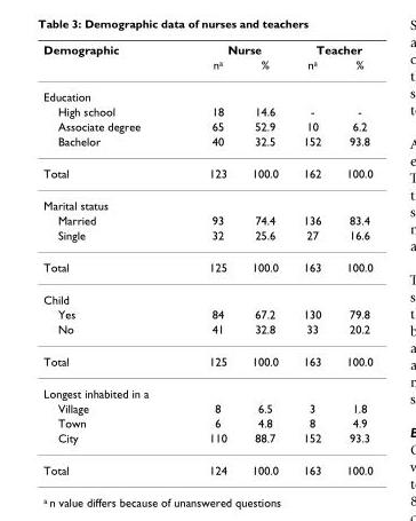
<table><thead><tr><td rowspan="2">Demographic</td><td colspan="2">Nurse</td><td colspan="2">Teacher</td></tr><tr><td>n<sup>a</sup></td><td>%</td><td>n<sup>a</sup></td><td>%</td></tr></thead><tbody><tr><td colspan="5">Education</td></tr><tr><td>High school</td><td>18</td><td>14.6</td><td>-</td><td>-</td></tr><tr><td>Associate degree</td><td>65</td><td>52.9</td><td>10</td><td>6.2</td></tr><tr><td>Bachelor</td><td>40</td><td>32.5</td><td>152</td><td>93.8</td></tr><tr><td>Total</td><td>123</td><td>100.0</td><td>162</td><td>100.0</td></tr><tr><td colspan="5">Marital status</td></tr><tr><td>Married</td><td>93</td><td>74.4</td><td>136</td><td>83.4</td></tr><tr><td>Single</td><td>32</td><td>25.6</td><td>27</td><td>16.6</td></tr><tr><td>Total</td><td>125</td><td>100.0</td><td>163</td><td>100.0</td></tr><tr><td colspan="5">Child</td></tr><tr><td>Yes</td><td>84</td><td>67.2</td><td>130</td><td>79.8</td></tr><tr><td>No</td><td>41</td><td>32.8</td><td>33</td><td>20.2</td></tr><tr><td>Total</td><td>125</td><td>100.0</td><td>163</td><td>100.0</td></tr><tr><td colspan="5">Longest inhabited in a</td></tr><tr><td>Village</td><td>8</td><td>6.5</td><td>3</td><td>1.8</td></tr><tr><td>Town</td><td>6</td><td>4.8</td><td>8</td><td>4.9</td></tr><tr><td>City</td><td>110</td><td>88.7</td><td>152</td><td>93.3</td></tr><tr><td>Total</td><td>124</td><td>100.0</td><td>163</td><td>100.0</td></tr></tbody></table>